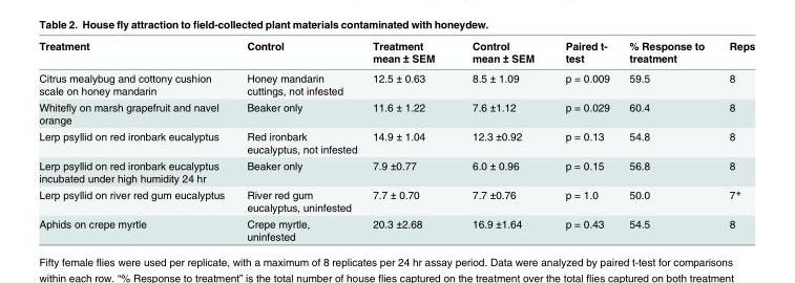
<table><thead><tr><td>Treatment</td><td>Control</td><td>Treatment mean ± SEM</td><td>Control mean ± SEM</td><td>Paired t- test</td><td>% Response to treatment</td><td>Reps</td></tr></thead><tbody><tr><td>Citrus mealybug and cottony cushion scale on honey mandarin</td><td>Honey mandarin cuttings, not infested</td><td>12.5 ± 0.63</td><td>8.5 ± 1.09</td><td>p = 0.009</td><td>59.5</td><td>8</td></tr><tr><td>Whitefly on marsh grapefruit and navel orange</td><td>Beaker only</td><td>11.6 ± 1.22</td><td>7.6 ±1.12</td><td>p = 0.029</td><td>60.4</td><td>8</td></tr><tr><td>Lerp psyllid on red ironbark eucalyptus</td><td>Red ironbark eucalyptus, not infested</td><td>14.9 ± 1.04</td><td>12.3 ±0.92</td><td>p = 0.13</td><td>54.8</td><td>8</td></tr><tr><td>Lerp psyllid on red ironbark eucalyptus incubated under high humidity 24 hr</td><td>Beaker only</td><td>7.9 ±0.77</td><td>6.0 ± 0.96</td><td>p = 0.15</td><td>56.8</td><td>8</td></tr><tr><td>Lerp psyllid on river red gum eucalyptus</td><td>River red gum eucalyptus, uninfested</td><td>7.7 ± 0.70</td><td>7.7 ±0.76</td><td>p = 1.0</td><td>50.0</td><td>7*</td></tr><tr><td>Aphids on crepe myrtle</td><td>Crepe myrtle, uninfested</td><td>20.3 ±2.68</td><td>16.9 ±1.64</td><td>p = 0.43</td><td>54.5</td><td>8</td></tr></tbody></table>